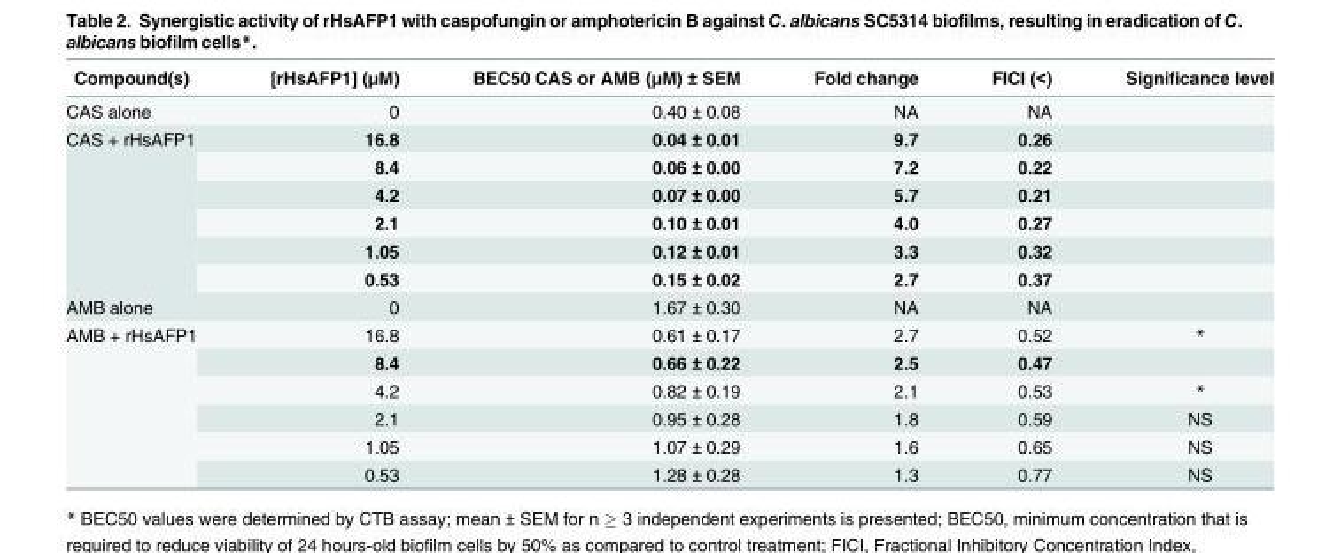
<table><thead><tr><td>Compound(s)</td><td>[rHsAFP1] (μM)</td><td>BEC50 CAS or AMB (μM) ± SEM</td><td>Fold change</td><td>FICI (&lt;)</td><td>Significance level</td></tr></thead><tbody><tr><td>CAS alone</td><td>0</td><td>0.40 ± 0.08</td><td>NA</td><td>NA</td><td></td></tr><tr><td rowspan="6">CAS + rHsAFP1</td><td>16.8</td><td>0.04 ± 0.01</td><td>9.7</td><td>0.26</td><td></td></tr><tr><td>8.4</td><td>0.06 ± 0.00</td><td>7.2</td><td>0.22</td><td></td></tr><tr><td>4.2</td><td>0.07 ± 0.00</td><td>5.7</td><td>0.21</td><td></td></tr><tr><td>2.1</td><td>0.10 ± 0.01</td><td>4.0</td><td>0.27</td><td></td></tr><tr><td>1.05</td><td>0.12 ± 0.01</td><td>3.3</td><td>0.32</td><td></td></tr><tr><td>0.53</td><td>0.15 ± 0.02</td><td>2.7</td><td>0.37</td><td></td></tr><tr><td>AMB alone</td><td>0</td><td>1.67 ± 0.30</td><td>NA</td><td>NA</td><td></td></tr><tr><td rowspan="6">AMB + rHsAFP1</td><td>16.8</td><td>0.61 ± 0.17</td><td>2.7</td><td>0.52</td><td>*</td></tr><tr><td>8.4</td><td>0.66 ± 0.22</td><td>2.5</td><td>0.47</td><td></td></tr><tr><td>4.2</td><td>0.82 ± 0.19</td><td>2.1</td><td>0.53</td><td>*</td></tr><tr><td>2.1</td><td>0.95 ± 0.28</td><td>1.8</td><td>0.59</td><td>NS</td></tr><tr><td>1.05</td><td>1.07 ± 0.29</td><td>1.6</td><td>0.65</td><td>NS</td></tr><tr><td>0.53</td><td>1.28 ± 0.28</td><td>1.3</td><td>0.77</td><td>NS</td></tr></tbody></table>